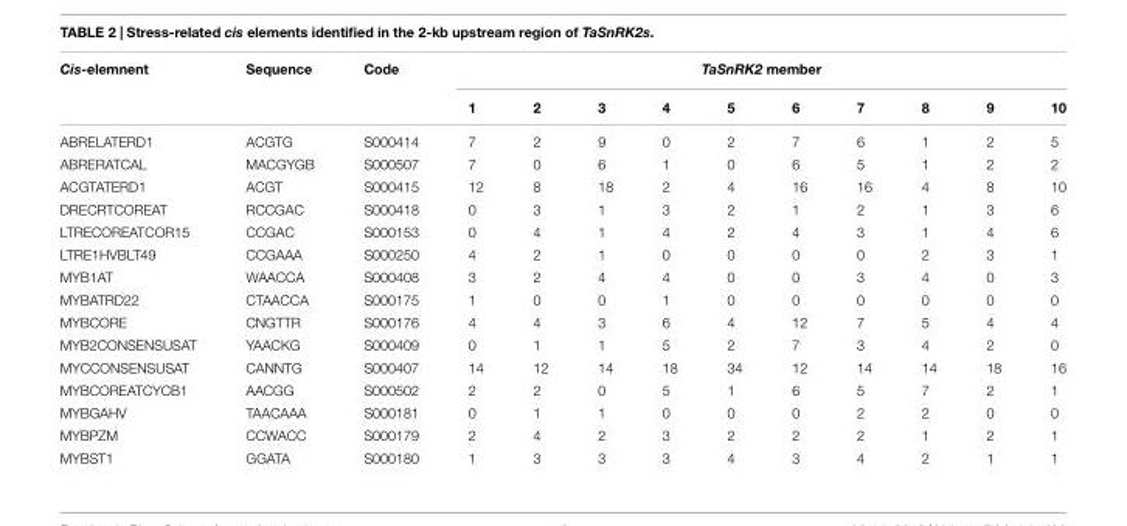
<table><thead><tr><td rowspan="2">Cis-elemnent</td><td rowspan="2">Sequence</td><td rowspan="2">Code</td><td colspan="10">TaSnRK2 member</td></tr><tr><td>1</td><td>2</td><td>3</td><td>4</td><td>5</td><td>6</td><td>7</td><td>8</td><td>9</td><td>10</td></tr></thead><tbody><tr><td>ABRELATERD1</td><td>ACGTG</td><td>S000414</td><td>7</td><td>2</td><td>9</td><td>0</td><td>2</td><td>7</td><td>6</td><td>1</td><td>2</td><td>5</td></tr><tr><td>ABRERATCAL</td><td>MACGYGB</td><td>S000507</td><td>7</td><td>0</td><td>6</td><td>1</td><td>0</td><td>6</td><td>5</td><td>1</td><td>2</td><td>2</td></tr><tr><td>ACGTATERD1</td><td>ACGT</td><td>S000415</td><td>12</td><td>8</td><td>18</td><td>2</td><td>4</td><td>16</td><td>16</td><td>4</td><td>8</td><td>10</td></tr><tr><td>DRECRTCOREAT</td><td>RCCGAC</td><td>S000418</td><td>0</td><td>3</td><td>1</td><td>3</td><td>2</td><td>1</td><td>2</td><td>1</td><td>3</td><td>6</td></tr><tr><td>LTRECOREATCOR15</td><td>CCGAC</td><td>S000153</td><td>0</td><td>4</td><td>1</td><td>4</td><td>2</td><td>4</td><td>3</td><td>1</td><td>4</td><td>6</td></tr><tr><td>LTRE1HVBLT49</td><td>CCGAAA</td><td>S000250</td><td>4</td><td>2</td><td>1</td><td>0</td><td>0</td><td>0</td><td>0</td><td>2</td><td>3</td><td>1</td></tr><tr><td>MYB1AT</td><td>WAACCA</td><td>S000408</td><td>3</td><td>2</td><td>4</td><td>4</td><td>0</td><td>0</td><td>3</td><td>4</td><td>0</td><td>3</td></tr><tr><td>MYBATRD22</td><td>CTAACCA</td><td>S000175</td><td>1</td><td>0</td><td>0</td><td>1</td><td>0</td><td>0</td><td>0</td><td>0</td><td>0</td><td>0</td></tr><tr><td>MYBCORE</td><td>CNGTTR</td><td>S000176</td><td>4</td><td>4</td><td>3</td><td>6</td><td>4</td><td>12</td><td>7</td><td>5</td><td>4</td><td>4</td></tr><tr><td>MYB2CONSENSUSAT</td><td>YAACKG</td><td>S000409</td><td>0</td><td>1</td><td>1</td><td>5</td><td>2</td><td>7</td><td>3</td><td>4</td><td>2</td><td>0</td></tr><tr><td>MYCCONSENSUSAT</td><td>CANNTG</td><td>S000407</td><td>14</td><td>12</td><td>14</td><td>18</td><td>34</td><td>12</td><td>14</td><td>14</td><td>18</td><td>16</td></tr><tr><td>MYBCOREATCYCB1</td><td>AACGG</td><td>S000502</td><td>2</td><td>2</td><td>0</td><td>5</td><td>1</td><td>6</td><td>5</td><td>7</td><td>2</td><td>1</td></tr><tr><td>MYBGAHV</td><td>TAACAAA</td><td>S000181</td><td>0</td><td>1</td><td>1</td><td>0</td><td>0</td><td>0</td><td>2</td><td>2</td><td>0</td><td>0</td></tr><tr><td>MYBPZM</td><td>CCWACC</td><td>S000179</td><td>2</td><td>4</td><td>2</td><td>3</td><td>2</td><td>2</td><td>2</td><td>1</td><td>2</td><td>1</td></tr><tr><td>MYBST1</td><td>GGATA</td><td>S000180</td><td>1</td><td>3</td><td>3</td><td>3</td><td>4</td><td>3</td><td>4</td><td>2</td><td>1</td><td>1</td></tr></tbody></table>